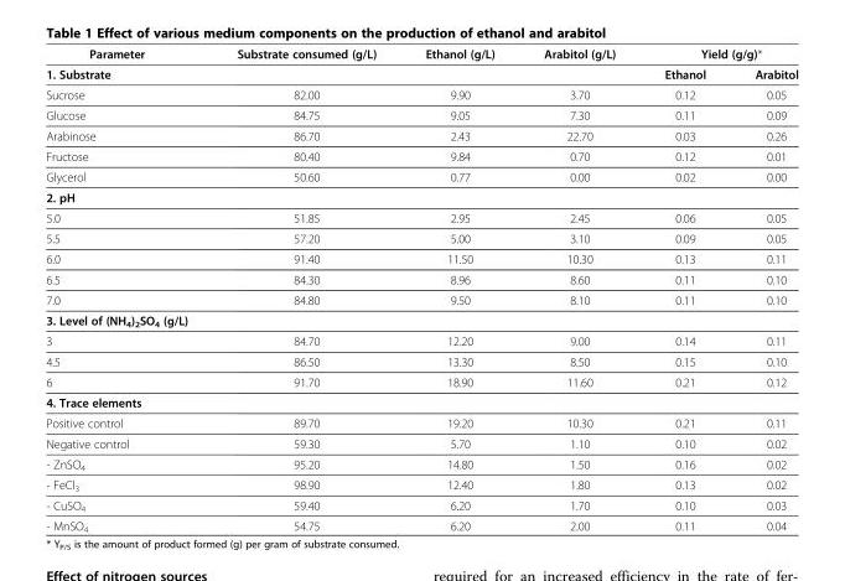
<table><thead><tr><td rowspan="2">Parameter 1. Substrate</td><td rowspan="2">Substrate consumed (g/L)</td><td rowspan="2">Ethanol (g/L)</td><td rowspan="2">Arabitol (g/L)</td><td colspan="2">Yield (g/g)*</td></tr><tr><td>Ethanol</td><td>Arabitol</td></tr></thead><tbody><tr><td>Sucrose</td><td>82.00</td><td>9.90</td><td>3.70</td><td>0.12</td><td>0.05</td></tr><tr><td>Glucose</td><td>84.75</td><td>9.05</td><td>7.30</td><td>0.11</td><td>0.09</td></tr><tr><td>Arabinose</td><td>86.70</td><td>2.43</td><td>22.70</td><td>0.03</td><td>0.26</td></tr><tr><td>Fructose</td><td>80.40</td><td>9.84</td><td>0.70</td><td>0.12</td><td>0.01</td></tr><tr><td>Glycerol</td><td>50.60</td><td>0.77</td><td>0.00</td><td>0.02</td><td>0.00</td></tr><tr><td colspan="6">2. pH</td></tr><tr><td>5.0</td><td>51.85</td><td>2.95</td><td>2.45</td><td>0.06</td><td>0.05</td></tr><tr><td>5.5</td><td>57.20</td><td>5.00</td><td>3.10</td><td>0.09</td><td>0.05</td></tr><tr><td>6.0</td><td>91.40</td><td>11.50</td><td>10.30</td><td>0.13</td><td>0.11</td></tr><tr><td>6.5</td><td>84.30</td><td>8.96</td><td>8.60</td><td>0.11</td><td>0.10</td></tr><tr><td>7.0</td><td>84.80</td><td>9.50</td><td>8.10</td><td>0.11</td><td>0.10</td></tr><tr><td colspan="6">3. Level of (NH<sub>4</sub>)<sub>2</sub>SO<sub>4</sub> (g/L)</td></tr><tr><td>3</td><td>84.70</td><td>12.20</td><td>9.00</td><td>0.14</td><td>0.11</td></tr><tr><td>4.5</td><td>86.50</td><td>13.30</td><td>8.50</td><td>0.15</td><td>0.10</td></tr><tr><td>6</td><td>91.70</td><td>18.90</td><td>11.60</td><td>0.21</td><td>0.12</td></tr><tr><td colspan="6">4. Trace elements</td></tr><tr><td>Positive control</td><td>89.70</td><td>19.20</td><td>10.30</td><td>0.21</td><td>0.11</td></tr><tr><td>Negative control</td><td>59.30</td><td>5.70</td><td>1.10</td><td>0.10</td><td>0.02</td></tr><tr><td>- ZnSO<sub>4</sub></td><td>95.20</td><td>14.80</td><td>1.50</td><td>0.16</td><td>0.02</td></tr><tr><td>- FeCl<sub>3</sub></td><td>98.90</td><td>12.40</td><td>1.80</td><td>0.13</td><td>0.02</td></tr><tr><td>- CuSO<sub>4</sub></td><td>59.40</td><td>6.20</td><td>1.70</td><td>0.10</td><td>0.03</td></tr><tr><td>- MnSO<sub>4</sub></td><td>54.75</td><td>6.20</td><td>2.00</td><td>0.11</td><td>0.04</td></tr></tbody></table>